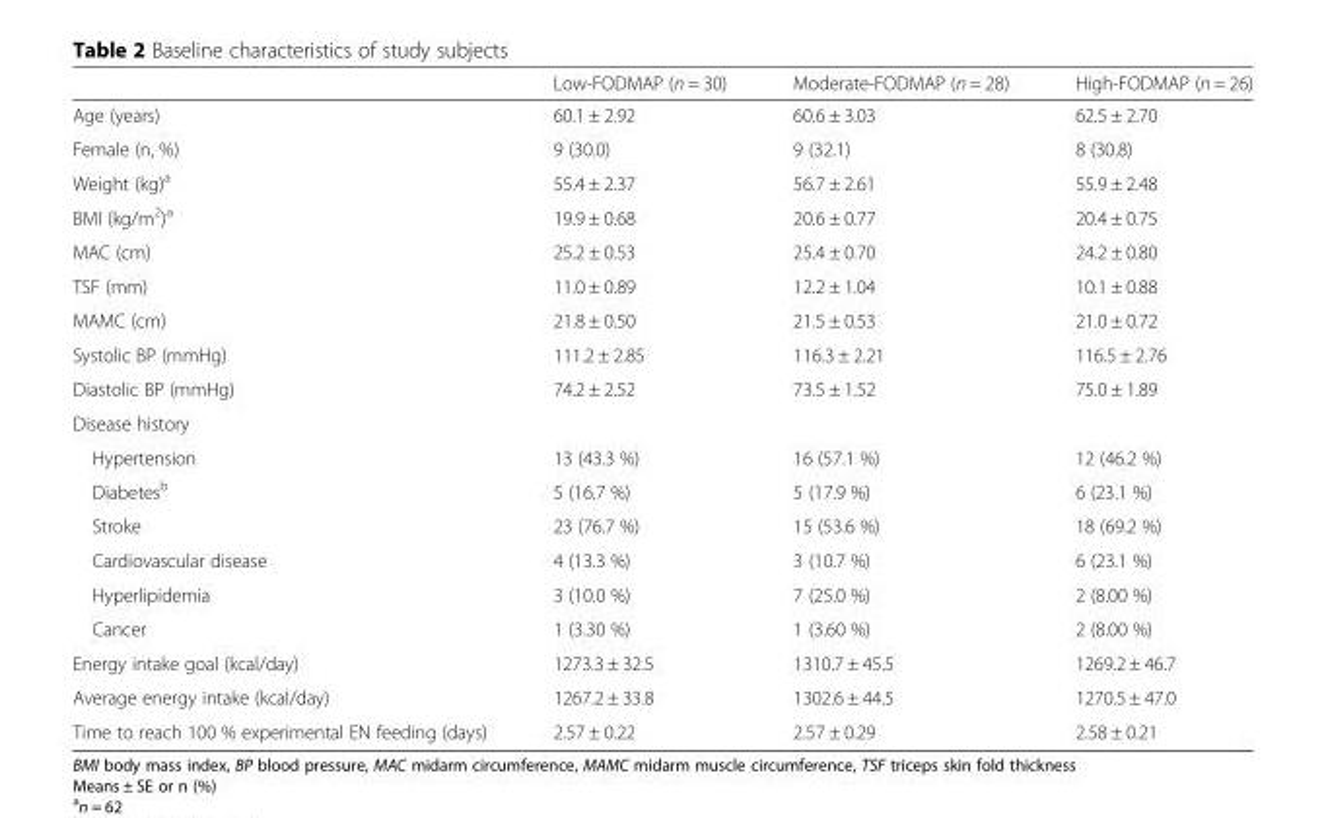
<table><thead><tr><td></td><td>Low-FODMAP (n = 30)</td><td>Moderate-FODMAP (n = 28)</td><td>High-FODMAP (n = 26)</td></tr></thead><tbody><tr><td>Age (years)</td><td>60.1 ± 2.92</td><td>60.6 ± 3.03</td><td>62.5 ± 2.70</td></tr><tr><td>Female (n, %)</td><td>9 (30.0)</td><td>9 (32.1)</td><td>8 (30.8)</td></tr><tr><td>Weight (kg)<sup>a</sup></td><td>55.4 ± 2.37</td><td>56.7 ± 2.61</td><td>55.9 ± 2.48</td></tr><tr><td>BMI (kg/m<sup>2</sup>)<sup>a</sup></td><td>19.9 ± 0.68</td><td>20.6 ± 0.77</td><td>20.4 ± 0.75</td></tr><tr><td>MAC (cm)</td><td>25.2 ± 0.53</td><td>25.4 ± 0.70</td><td>24.2 ± 0.80</td></tr><tr><td>TSF (mm)</td><td>11.0 ± 0.89</td><td>12.2 ± 1.04</td><td>10.1 ± 0.88</td></tr><tr><td>MAMC (cm)</td><td>21.8 ± 0.50</td><td>21.5 ± 0.53</td><td>21.0 ± 0.72</td></tr><tr><td>Systolic BP (mmHg)</td><td>111.2 ± 2.85</td><td>116.3 ± 2.21</td><td>116.5 ± 2.76</td></tr><tr><td>Diastolic BP (mmHg)</td><td>74.2 ± 2.52</td><td>73.5 ± 1.52</td><td>75.0 ± 1.89</td></tr><tr><td colspan="4">Disease history</td></tr><tr><td>Hypertension</td><td>13 (43.3 %)</td><td>16 (57.1 %)</td><td>12 (46.2 %)</td></tr><tr><td>Diabetes<sup>b</sup></td><td>5 (16.7 %)</td><td>5 (17.9 %)</td><td>6 (23.1 %)</td></tr><tr><td>Stroke</td><td>23 (76.7 %)</td><td>15 (53.6 %)</td><td>18 (69.2 %)</td></tr><tr><td>Cardiovascular disease</td><td>4 (13.3 %)</td><td>3 (10.7 %)</td><td>6 (23.1 %)</td></tr><tr><td>Hyperlipidemia</td><td>3 (10.0 %)</td><td>7 (25.0 %)</td><td>2 (8.00 %)</td></tr><tr><td>Cancer</td><td>1 (3.30 %)</td><td>1 (3.60 %)</td><td>2 (8.00 %)</td></tr><tr><td>Energy intake goal (kcal/day)</td><td>1273.3 ± 32.5</td><td>1310.7 ± 45.5</td><td>1269.2 ± 46.7</td></tr><tr><td>Average energy intake (kcal/day)</td><td>1267.2 ± 33.8</td><td>1302.6 ± 44.5</td><td>1270.5 ± 47.0</td></tr><tr><td>Time to reach 100 % experimental EN feeding (days)</td><td>2.57 ± 0.22</td><td>2.57 ± 0.29</td><td>2.58 ± 0.21</td></tr></tbody></table>